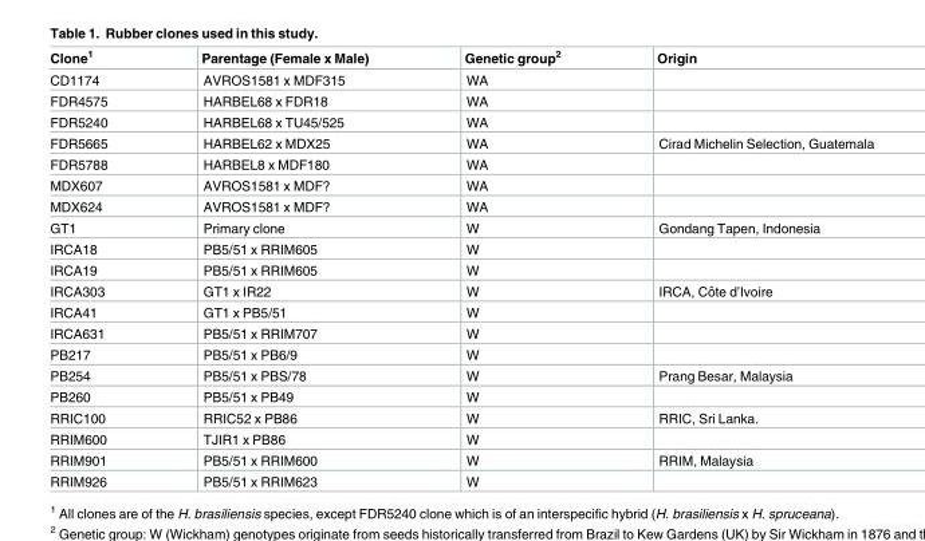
<table><thead><tr><td>Clone<sup>1</sup></td><td>Parentage (Female x Male)</td><td>Genetic group<sup>2</sup></td><td>Origin</td></tr></thead><tbody><tr><td>CD1174</td><td>AVROS1581 x MDF315</td><td>WA</td><td></td></tr><tr><td>FDR4575</td><td>HARBEL68 x FDR18</td><td>WA</td><td></td></tr><tr><td>FDR5240</td><td>HARBEL68 x TU45/525</td><td>WA</td><td></td></tr><tr><td>FDR5665</td><td>HARBEL62 x MDX25</td><td>WA</td><td>Cirad Michelin Selection, Guatemala</td></tr><tr><td>FDR5788</td><td>HARBEL8 x MDF180</td><td>WA</td><td></td></tr><tr><td>MDX607</td><td>AVROS1581 x MDF?</td><td>WA</td><td></td></tr><tr><td>MDX624</td><td>AVROS1581 x MDF?</td><td>WA</td><td></td></tr><tr><td>GT1</td><td>Primary clone</td><td>W</td><td>Gondang Tapen, Indonesia</td></tr><tr><td>IRCA18</td><td>PB5/51 x RRIM605</td><td>W</td><td></td></tr><tr><td>IRCA19</td><td>PB5/51 x RRIM605</td><td>W</td><td></td></tr><tr><td>IRCA303</td><td>GT1 x IR22</td><td>W</td><td>IRCA, Coˆte d’Ivoire</td></tr><tr><td>IRCA41</td><td>GT1 x PB5/51</td><td>W</td><td></td></tr><tr><td>IRCA631</td><td>PB5/51 x RRIM707</td><td>W</td><td></td></tr><tr><td>PB217</td><td>PB5/51 x PB6/9</td><td>W</td><td></td></tr><tr><td>PB254</td><td>PB5/51 x PBS/78</td><td>W</td><td>Prang Besar, Malaysia</td></tr><tr><td>PB260</td><td>PB5/51 x PB49</td><td>W</td><td></td></tr><tr><td>RRIC100</td><td>RRIC52 x PB86</td><td>W</td><td>RRIC, Sri Lanka.</td></tr><tr><td>RRIM600</td><td>TJIR1 x PB86</td><td>W</td><td></td></tr><tr><td>RRIM901</td><td>PB5/51 x RRIM600</td><td>W</td><td>RRIM, Malaysia</td></tr><tr><td>RRIM926</td><td>PB5/51 x RRIM623</td><td>W</td><td></td></tr></tbody></table>